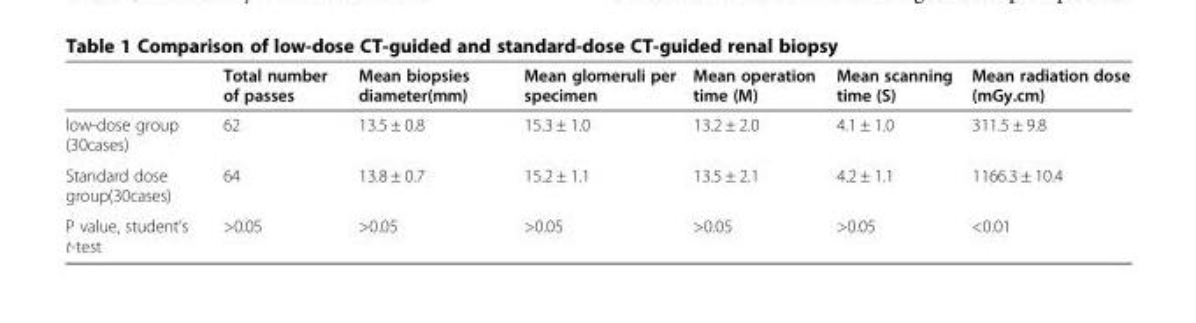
<table><thead><tr><td></td><td>Total number of passes</td><td>Mean biopsies diameter(mm)</td><td>Mean glomeruli per specimen</td><td>Mean operation time (M)</td><td>Mean scanning time (S)</td><td>Mean radiation dose (mGy.cm)</td></tr></thead><tbody><tr><td>low-dose group (30cases)</td><td>62</td><td>13.5 ± 0.8</td><td>15.3 ± 1.0</td><td>13.2 ± 2.0</td><td>4.1 ± 1.0</td><td>311.5 ± 9.8</td></tr><tr><td>Standard dose group(30cases)</td><td>64</td><td>13.8 ± 0.7</td><td>15.2 ± 1.1</td><td>13.5 ± 2.1</td><td>4.2 ± 1.1</td><td>1166.3 ± 10.4</td></tr><tr><td>P value, student’s t-test</td><td>&gt;0.05</td><td>&gt;0.05</td><td>&gt;0.05</td><td>&gt;0.05</td><td>&gt;0.05</td><td>&lt;0.01</td></tr></tbody></table>